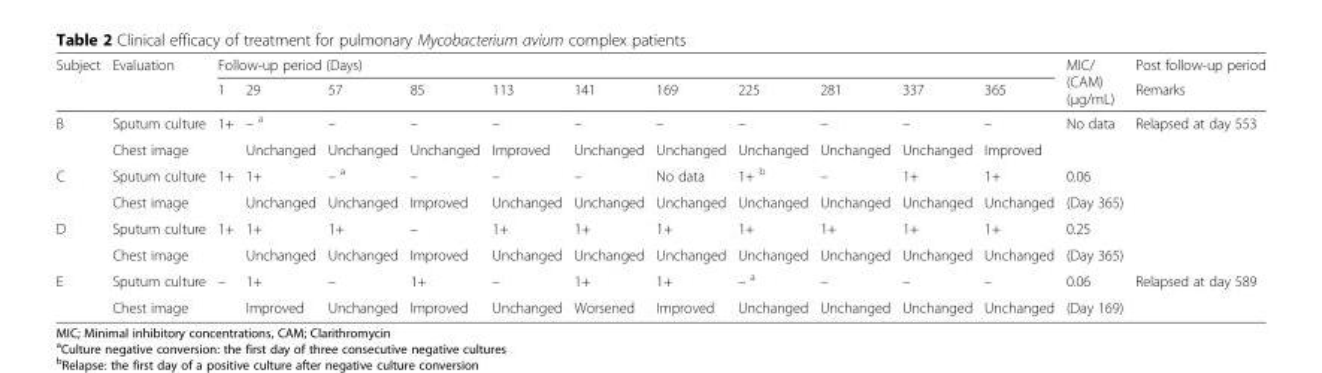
<table><thead><tr><td rowspan="2">Subject</td><td rowspan="2">Evaluation</td><td colspan="11">Follow-up period (Days)</td><td rowspan="2">MIC/ (CAM) (μg/mL)</td><td rowspan="2">Post follow-up period Remarks</td></tr><tr><td>1</td><td>29</td><td>57</td><td>85</td><td>113</td><td>141</td><td>169</td><td>225</td><td>281</td><td>337</td><td>365</td></tr></thead><tbody><tr><td rowspan="2">B</td><td>Sputum culture</td><td>1+</td><td>– <sup>a</sup></td><td>–</td><td>–</td><td>–</td><td>–</td><td>–</td><td>–</td><td>–</td><td>–</td><td>–</td><td rowspan="2">No data</td><td rowspan="2">Relapsed at day 553</td></tr><tr><td>Chest image</td><td></td><td>Unchanged</td><td>Unchanged</td><td>Unchanged</td><td>Improved</td><td>Unchanged</td><td>Unchanged</td><td>Unchanged</td><td>Unchanged</td><td>Unchanged</td><td>Improved</td></tr><tr><td rowspan="2">C</td><td>Sputum culture</td><td>1+</td><td>1+</td><td>– <sup>a</sup></td><td>–</td><td>–</td><td>–</td><td>No data</td><td>1+ <sup>b</sup></td><td>–</td><td>1+</td><td>1+</td><td>0.06</td><td rowspan="2"></td></tr><tr><td>Chest image</td><td></td><td>Unchanged</td><td>Unchanged</td><td>Improved</td><td>Unchanged</td><td>Unchanged</td><td>Unchanged</td><td>Unchanged</td><td>Unchanged</td><td>Unchanged</td><td>Unchanged</td><td>(Day 365)</td></tr><tr><td rowspan="2">D</td><td>Sputum culture</td><td>1+</td><td>1+</td><td>1+</td><td>–</td><td>1+</td><td>1+</td><td>1+</td><td>1+</td><td>1+</td><td>1+</td><td>1+</td><td>0.25</td><td rowspan="2"></td></tr><tr><td>Chest image</td><td></td><td>Unchanged</td><td>Unchanged</td><td>Improved</td><td>Unchanged</td><td>Unchanged</td><td>Unchanged</td><td>Unchanged</td><td>Unchanged</td><td>Unchanged</td><td>Unchanged</td><td>(Day 365)</td></tr><tr><td rowspan="2">E</td><td>Sputum culture</td><td>–</td><td>1+</td><td>–</td><td>1+</td><td>–</td><td>1+</td><td>1+</td><td>– <sup>a</sup></td><td>–</td><td>–</td><td>–</td><td>0.06</td><td rowspan="2">Relapsed at day 589</td></tr><tr><td>Chest image</td><td></td><td>Improved</td><td>Unchanged</td><td>Improved</td><td>Unchanged</td><td>Worsened</td><td>Improved</td><td>Unchanged</td><td>Unchanged</td><td>Unchanged</td><td>Unchanged</td><td>(Day 169)</td></tr></tbody></table>